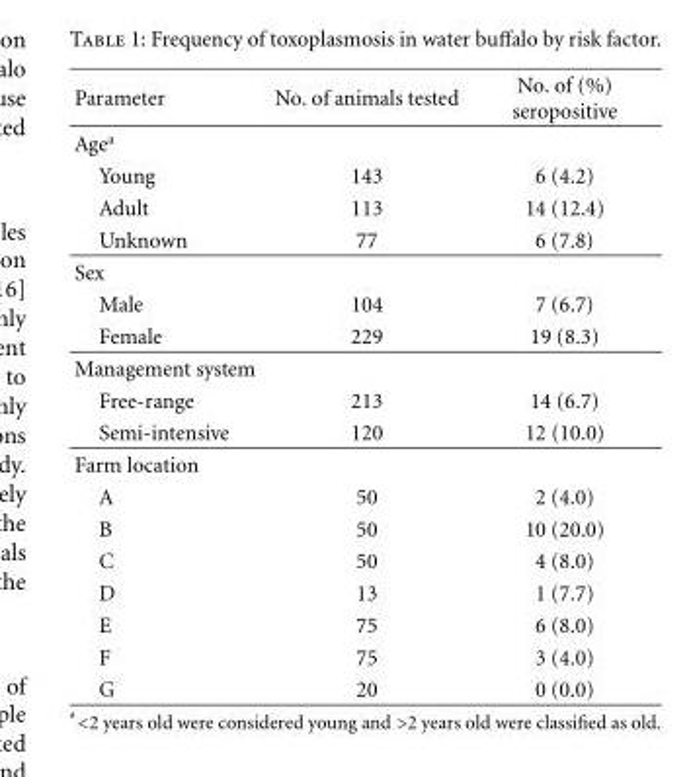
<table><thead><tr><td>Parameter</td><td>No. of animals tested</td><td>No. of (%) seropositive</td></tr></thead><tbody><tr><td colspan="3">Age<sup>a</sup></td></tr><tr><td>Young</td><td>143</td><td>6 (4.2)</td></tr><tr><td>Adult</td><td>113</td><td>14 (12.4)</td></tr><tr><td>Unknown</td><td>77</td><td>6 (7.8)</td></tr><tr><td colspan="3">Sex</td></tr><tr><td>Male</td><td>104</td><td>7 (6.7)</td></tr><tr><td>Female</td><td>229</td><td>19 (8.3)</td></tr><tr><td colspan="3">Management system</td></tr><tr><td>Free-range</td><td>213</td><td>14 (6.7)</td></tr><tr><td>Semi-intensive</td><td>120</td><td>12 (10.0)</td></tr><tr><td colspan="3">Farm location</td></tr><tr><td>A</td><td>50</td><td>2 (4.0)</td></tr><tr><td>B</td><td>50</td><td>10 (20.0)</td></tr><tr><td>C</td><td>50</td><td>4 (8.0)</td></tr><tr><td>D</td><td>13</td><td>1 (7.7)</td></tr><tr><td>E</td><td>75</td><td>6 (8.0)</td></tr><tr><td>F</td><td>75</td><td>3 (4.0)</td></tr><tr><td>G</td><td>20</td><td>0 (0.0)</td></tr></tbody></table>